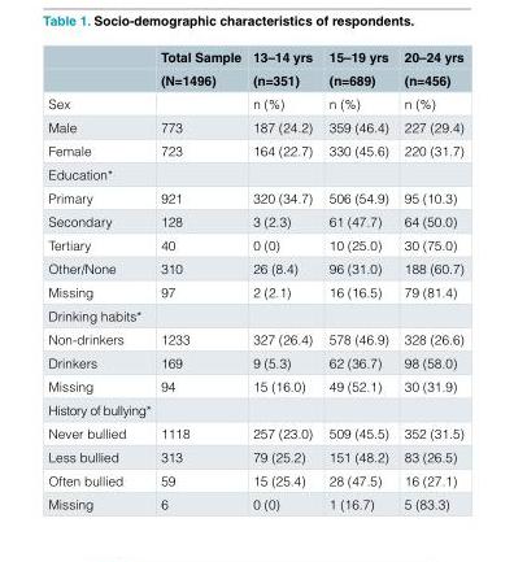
<table><thead><tr><td rowspan="2"></td><td rowspan="2">Total Sample (N=1496)</td><td rowspan="2">13–14 yrs (n=351)</td><td rowspan="2">15–19 yrs (n=689)</td><td rowspan="2">20–24 yrs (n=456)</td></tr><tr></tr></thead><tbody><tr><td>Sex</td><td></td><td>n (%)</td><td>n (%)</td><td>n (%)</td></tr><tr><td>Male</td><td>773</td><td>187 (24.2)</td><td>359 (46.4)</td><td>227 (29.4)</td></tr><tr><td>Female</td><td>723</td><td>164 (22.7)</td><td>330 (45.6)</td><td>220 (31.7)</td></tr><tr><td colspan="5">Education*</td></tr><tr><td>Primary</td><td>921</td><td>320 (34.7)</td><td>506 (54.9)</td><td>95 (10.3)</td></tr><tr><td>Secondary</td><td>128</td><td>3 (2.3)</td><td>61 (47.7)</td><td>64 (50.0)</td></tr><tr><td>Tertiary</td><td>40</td><td>0 (0)</td><td>10 (25.0)</td><td>30 (75.0)</td></tr><tr><td>Other/None</td><td>310</td><td>26 (8.4)</td><td>96 (31.0)</td><td>188 (60.7)</td></tr><tr><td>Missing</td><td>97</td><td>2 (2.1)</td><td>16 (16.5)</td><td>79 (81.4)</td></tr><tr><td colspan="5">Drinking habits*</td></tr><tr><td>Non-drinkers</td><td>1233</td><td>327 (26.4)</td><td>578 (46.9)</td><td>328 (26.6)</td></tr><tr><td>Drinkers</td><td>169</td><td>9 (5.3)</td><td>62 (36.7)</td><td>98 (58.0)</td></tr><tr><td>Missing</td><td>94</td><td>15 (16.0)</td><td>49 (52.1)</td><td>30 (31.9)</td></tr><tr><td colspan="5">History of bullying*</td></tr><tr><td>Never bullied</td><td>1118</td><td>257 (23.0)</td><td>509 (45.5)</td><td>352 (31.5)</td></tr><tr><td>Less bullied</td><td>313</td><td>79 (25.2)</td><td>151 (48.2)</td><td>83 (26.5)</td></tr><tr><td>Often bullied</td><td>59</td><td>15 (25.4)</td><td>28 (47.5)</td><td>16 (27.1)</td></tr><tr><td>Missing</td><td>6</td><td>0 (0)</td><td>1 (16.7)</td><td>5 (83.3)</td></tr></tbody></table>